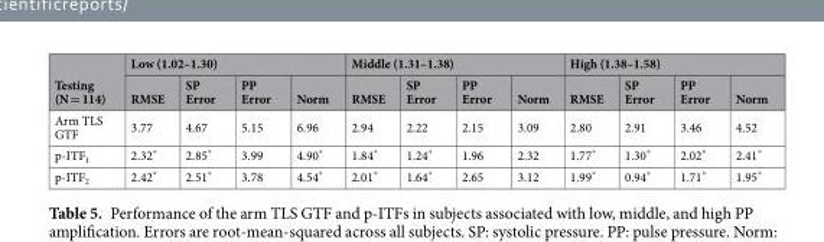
<table><thead><tr><td rowspan="2">Testing (N = 114)</td><td colspan="4">Low (1.02–1.30)</td><td colspan="4">Middle (1.31–1.38)</td><td colspan="4">High (1.38–1.58)</td></tr><tr><td>RMSE</td><td>SP Error</td><td>PP Error</td><td>Norm</td><td>RMSE</td><td>SP Error</td><td>PP Error</td><td>Norm</td><td>RMSE</td><td>SP Error</td><td>PP Error</td><td>Norm</td></tr></thead><tbody><tr><td>Arm TLS GTF</td><td>3.77</td><td>4.67</td><td>5.15</td><td>6.96</td><td>2.94</td><td>2.22</td><td>2.15</td><td>3.09</td><td>2.80</td><td>2.91</td><td>3.46</td><td>4.52</td></tr><tr><td>p-ITF<sub>1</sub></td><td>2.32*</td><td>2.85*</td><td>3.99</td><td>4.90*</td><td>1.84*</td><td>1.24*</td><td>1.96</td><td>2.32</td><td>1.77*</td><td>1.30*</td><td>2.02*</td><td>2.41*</td></tr><tr><td>p-ITF<sub>2</sub></td><td>2.42*</td><td>2.51*</td><td>3.78</td><td>4.54*</td><td>2.01*</td><td>1.64*</td><td>2.65</td><td>3.12</td><td>1.99*</td><td>0.94*</td><td>1.71*</td><td>1.95*</td></tr></tbody></table>